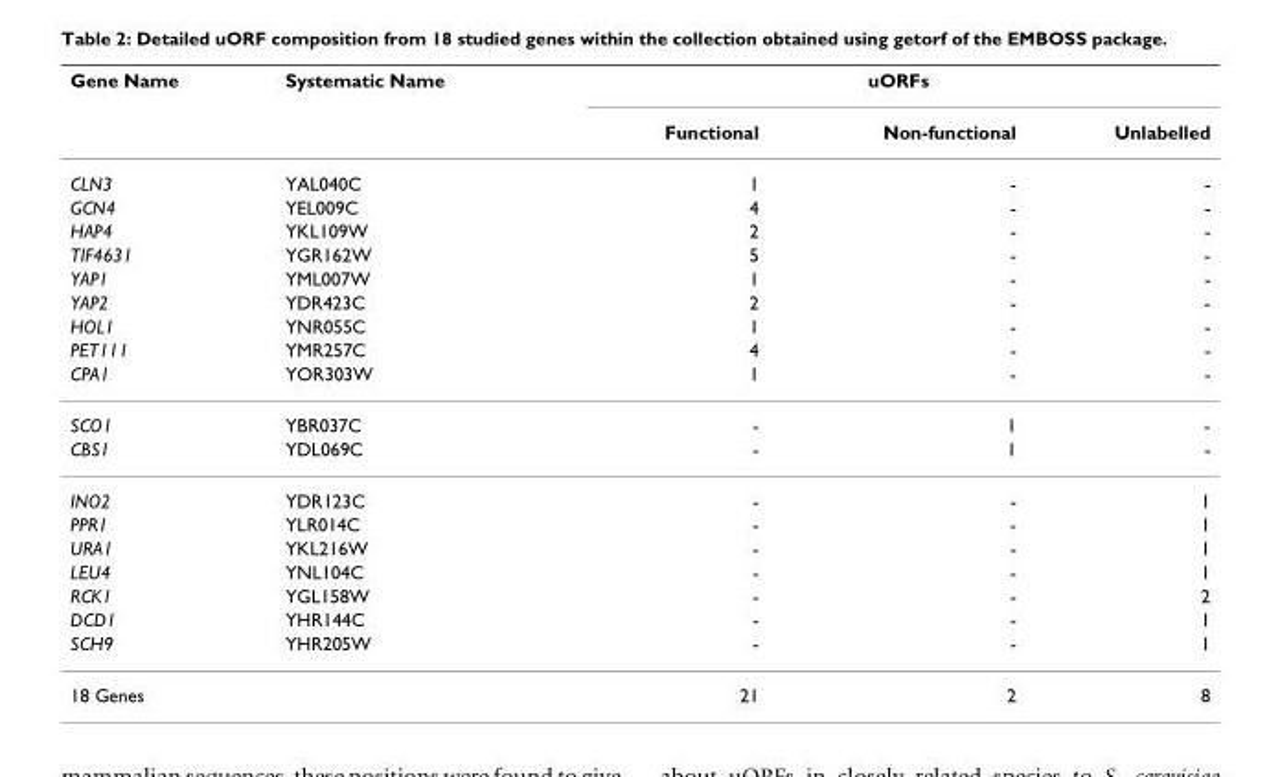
<table><thead><tr><td rowspan="2">Gene Name</td><td rowspan="2">Systematic Name</td><td colspan="3">uORFs</td></tr><tr><td>Functional</td><td>Non-functional</td><td>Unlabelled</td></tr></thead><tbody><tr><td>CLN3</td><td>YAL040C</td><td>1</td><td>-</td><td>-</td></tr><tr><td>GCN4</td><td>YEL009C</td><td>4</td><td>-</td><td>-</td></tr><tr><td>HAP4</td><td>YKL109W</td><td>2</td><td>-</td><td>-</td></tr><tr><td>TIF4631</td><td>YGR162W</td><td>5</td><td>-</td><td>-</td></tr><tr><td>YAP1</td><td>YML007W</td><td>1</td><td>-</td><td>-</td></tr><tr><td>YAP2</td><td>YDR423C</td><td>2</td><td>-</td><td>-</td></tr><tr><td>HOL1</td><td>YNR055C</td><td>1</td><td>-</td><td>-</td></tr><tr><td>PET111</td><td>YMR257C</td><td>4</td><td>-</td><td>-</td></tr><tr><td>CPA1</td><td>YOR303W</td><td>1</td><td>-</td><td>-</td></tr><tr><td>SCO1</td><td>YBR037C</td><td>-</td><td>1</td><td>-</td></tr><tr><td>CBS1</td><td>YDL069C</td><td>-</td><td>1</td><td>-</td></tr><tr><td>INO2</td><td>YDR123C</td><td>-</td><td>-</td><td>1</td></tr><tr><td>PPR1</td><td>YLR014C</td><td>-</td><td>-</td><td>1</td></tr><tr><td>URA1</td><td>YKL216W</td><td>-</td><td>-</td><td>1</td></tr><tr><td>LEU4</td><td>YNL104C</td><td>-</td><td>-</td><td>1</td></tr><tr><td>RCK1</td><td>YGL158W</td><td>-</td><td>-</td><td>2</td></tr><tr><td>DCD1</td><td>YHR144C</td><td>-</td><td>-</td><td>1</td></tr><tr><td>SCH9</td><td>YHR205W</td><td>-</td><td>-</td><td>1</td></tr><tr><td>18 Genes</td><td></td><td>21</td><td>2</td><td>8</td></tr></tbody></table>